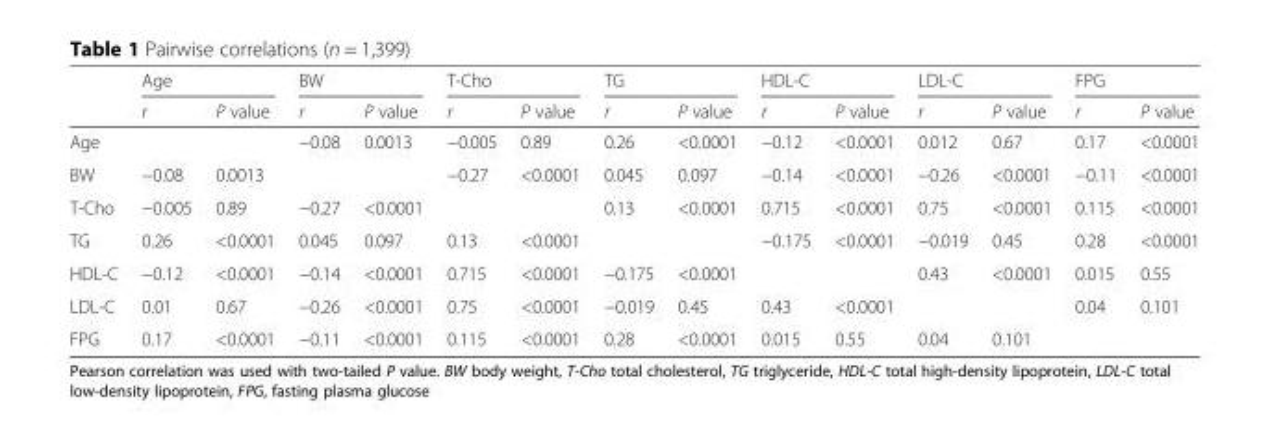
<table><thead><tr><td rowspan="2"></td><td colspan="2">Age</td><td colspan="2">BW</td><td colspan="2">T-Cho</td><td colspan="2">TG</td><td colspan="2">HDL-C</td><td colspan="2">LDL-C</td><td colspan="2">FPG</td></tr><tr><td>r</td><td>P value</td><td>r</td><td>P value</td><td>r</td><td>P value</td><td>r</td><td>P value</td><td>r</td><td>P value</td><td>r</td><td>P value</td><td>r</td><td>P value</td></tr></thead><tbody><tr><td>Age</td><td></td><td></td><td>−0.08</td><td>0.0013</td><td>−0.005</td><td>0.89</td><td>0.26</td><td>&lt;0.0001</td><td>−0.12</td><td>&lt;0.0001</td><td>0.012</td><td>0.67</td><td>0.17</td><td>&lt;0.0001</td></tr><tr><td>BW</td><td>−0.08</td><td>0.0013</td><td></td><td></td><td>−0.27</td><td>&lt;0.0001</td><td>0.045</td><td>0.097</td><td>−0.14</td><td>&lt;0.0001</td><td>−0.26</td><td>&lt;0.0001</td><td>−0.11</td><td>&lt;0.0001</td></tr><tr><td>T-Cho</td><td>−0.005</td><td>0.89</td><td>−0.27</td><td>&lt;0.0001</td><td></td><td></td><td>0.13</td><td>&lt;0.0001</td><td>0.715</td><td>&lt;0.0001</td><td>0.75</td><td>&lt;0.0001</td><td>0.115</td><td>&lt;0.0001</td></tr><tr><td>TG</td><td>0.26</td><td>&lt;0.0001</td><td>0.045</td><td>0.097</td><td>0.13</td><td>&lt;0.0001</td><td></td><td></td><td>−0.175</td><td>&lt;0.0001</td><td>−0.019</td><td>0.45</td><td>0.28</td><td>&lt;0.0001</td></tr><tr><td>HDL-C</td><td>−0.12</td><td>&lt;0.0001</td><td>−0.14</td><td>&lt;0.0001</td><td>0.715</td><td>&lt;0.0001</td><td>−0.175</td><td>&lt;0.0001</td><td></td><td></td><td>0.43</td><td>&lt;0.0001</td><td>0.015</td><td>0.55</td></tr><tr><td>LDL-C</td><td>0.01</td><td>0.67</td><td>−0.26</td><td>&lt;0.0001</td><td>0.75</td><td>&lt;0.0001</td><td>−0.019</td><td>0.45</td><td>0.43</td><td>&lt;0.0001</td><td></td><td></td><td>0.04</td><td>0.101</td></tr><tr><td>FPG</td><td>0.17</td><td>&lt;0.0001</td><td>−0.11</td><td>&lt;0.0001</td><td>0.115</td><td>&lt;0.0001</td><td>0.28</td><td>&lt;0.0001</td><td>0.015</td><td>0.55</td><td>0.04</td><td>0.101</td><td></td><td></td></tr></tbody></table>